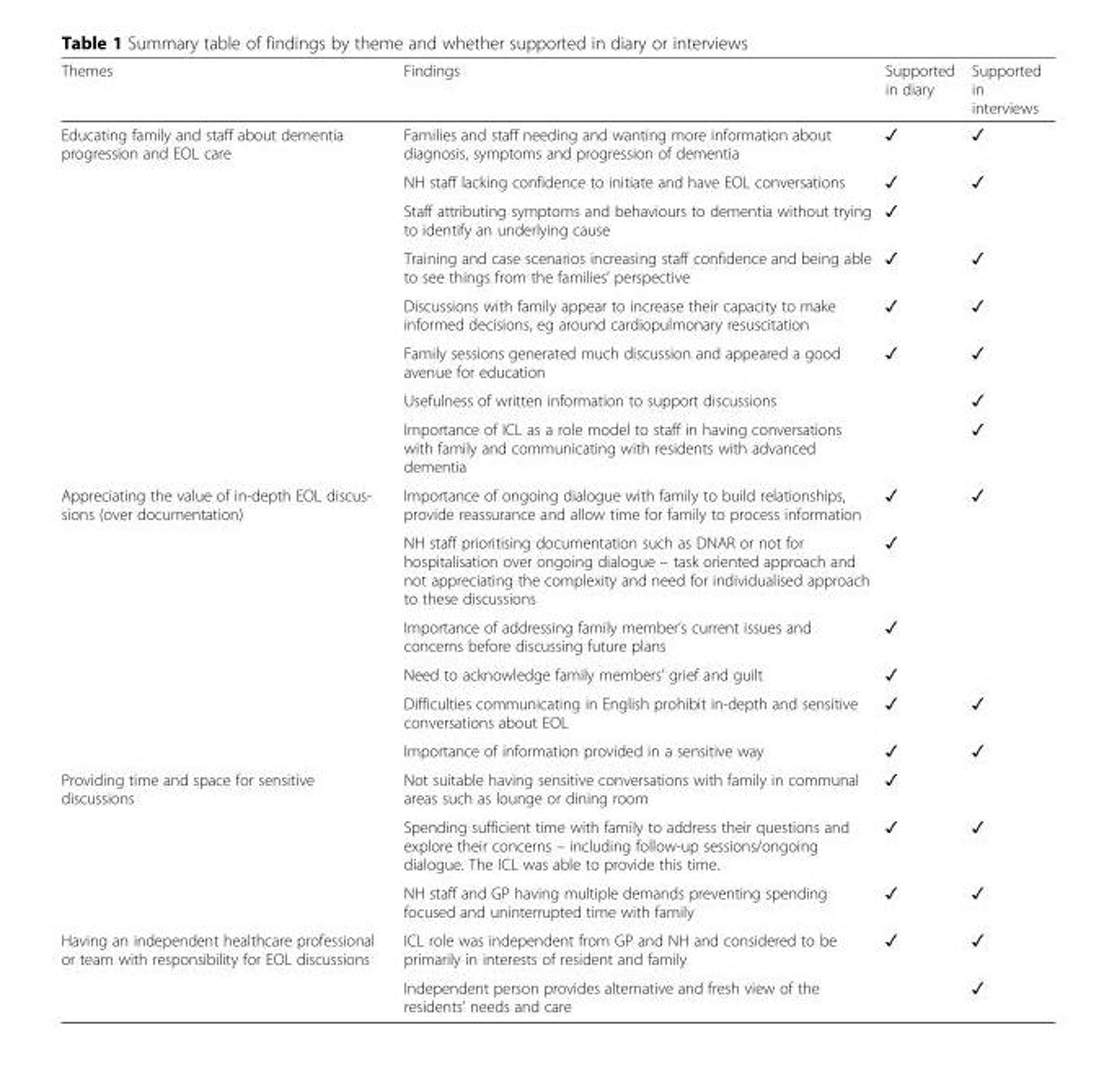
<table><thead><tr><td>Themes</td><td>Findings</td><td>Supported in diary</td><td>Supported in interviews</td></tr></thead><tbody><tr><td rowspan="8">Educating family and staff about dementia progression and EOL care</td><td>Families and staff needing and wanting more information about diagnosis, symptoms and progression of dementia</td><td>✓</td><td>✓</td></tr><tr><td>NH staff lacking confidence to initiate and have EOL conversations</td><td>✓</td><td>✓</td></tr><tr><td>Staff attributing symptoms and behaviours to dementia without trying to identify an underlying cause</td><td>✓</td><td></td></tr><tr><td>Training and case scenarios increasing staff confidence and being able to see things from the families’ perspective</td><td>✓</td><td>✓</td></tr><tr><td>Discussions with family appear to increase their capacity to make informed decisions, eg around cardiopulmonary resuscitation</td><td>✓</td><td>✓</td></tr><tr><td>Family sessions generated much discussion and appeared a good avenue for education</td><td>✓</td><td>✓</td></tr><tr><td>Usefulness of written information to support discussions</td><td></td><td>✓</td></tr><tr><td>Importance of ICL as a role model to staff in having conversations with family and communicating with residents with advanced dementia</td><td></td><td>✓</td></tr><tr><td rowspan="6">Appreciating the value of in-depth EOL discus- sions (over documentation)</td><td>Importance of ongoing dialogue with family to build relationships, provide reassurance and allow time for family to process information</td><td>✓</td><td>✓</td></tr><tr><td>NH staff prioritising documentation such as DNAR or not for hospitalisation over ongoing dialogue – task oriented approach and not appreciating the complexity and need for individualised approach to these discussions</td><td>✓</td><td></td></tr><tr><td>Importance of addressing family member’s current issues and concerns before discussing future plans</td><td>✓</td><td></td></tr><tr><td>Need to acknowledge family members’ grief and guilt</td><td>✓</td><td></td></tr><tr><td>Difficulties communicating in English prohibit in-depth and sensitive conversations about EOL</td><td>✓</td><td>✓</td></tr><tr><td>Importance of information provided in a sensitive way</td><td>✓</td><td>✓</td></tr><tr><td rowspan="3">Providing time and space for sensitive discussions</td><td>Not suitable having sensitive conversations with family in communal areas such as lounge or dining room</td><td>✓</td><td></td></tr><tr><td>Spending sufficient time with family to address their questions and explore their concerns – including follow-up sessions/ongoing dialogue. The ICL was able to provide this time.</td><td>✓</td><td>✓</td></tr><tr><td>NH staff and GP having multiple demands preventing spending focused and uninterrupted time with family</td><td>✓</td><td>✓</td></tr><tr><td rowspan="2">Having an independent healthcare professional or team with responsibility for EOL discussions</td><td>ICL role was independent from GP and NH and considered to be primarily in interests of resident and family</td><td>✓</td><td>✓</td></tr><tr><td>Independent person provides alternative and fresh view of the residents’ needs and care</td><td></td><td>✓</td></tr></tbody></table>